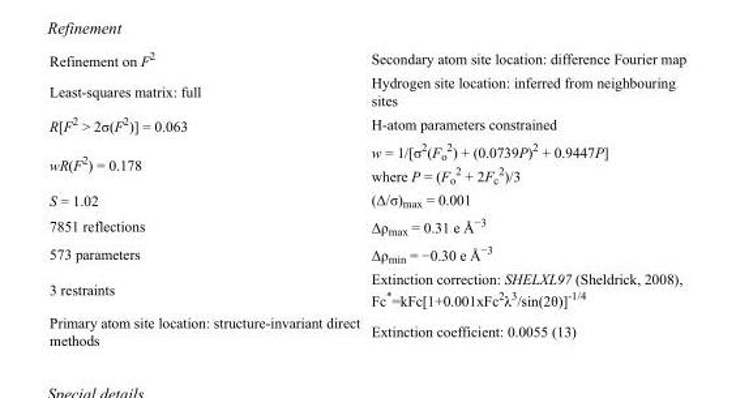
<table><tbody><tr><td>Refinement on F<sup>2</sup></td><td>Secondary atom site location: difference Fourier map</td></tr><tr><td>Least-squares matrix: full</td><td>Hydrogen site location: inferred from neighbouring sites</td></tr><tr><td>R[F<sup>2</sup> &gt; 2σ(F<sup>2</sup>)] = 0.063</td><td>H-atom parameters constrained</td></tr><tr><td>wR(F<sup>2</sup>) = 0.178</td><td>w = 1/[σ<sup>2</sup>(F<sub>o</sub> <sup>2</sup>) + (0.0739P)<sup>2</sup> + 0.9447P] where P = (F<sub>o</sub> <sup>2</sup> + 2F<sub>c</sub> <sup>2</sup>)/3</td></tr><tr><td>S = 1.02</td><td>(Δ/σ)<sub>max</sub> = 0.001</td></tr><tr><td>7851 reflections</td><td>Δρ<sub>max</sub> = 0.31 e Å<sup>−3</sup></td></tr><tr><td>573 parameters</td><td>Δρ<sub>min</sub> = −0.30 e Å<sup>−3</sup></td></tr><tr><td>3 restraints</td><td>Extinction correction: SHELXL97 (Sheldrick, 2008), Fc*=kFc[1+0.001xFc<sup>2</sup>λ<sup>3</sup>/sin(2θ)]<sup>-1/4</sup></td></tr><tr><td>Primary atom site location: structure-invariant direct methods</td><td>Extinction coefficient: 0.0055 (13)</td></tr></tbody></table>